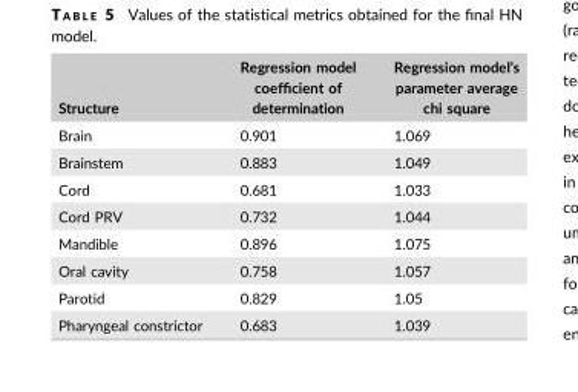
<table><thead><tr><td>Structure</td><td>Regression model coefficient of determination</td><td>Regression model’s parameter average chi square</td></tr></thead><tbody><tr><td>Brain</td><td>0.901</td><td>1.069</td></tr><tr><td>Brainstem</td><td>0.883</td><td>1.049</td></tr><tr><td>Cord</td><td>0.681</td><td>1.033</td></tr><tr><td>Cord PRV</td><td>0.732</td><td>1.044</td></tr><tr><td>Mandible</td><td>0.896</td><td>1.075</td></tr><tr><td>Oral cavity</td><td>0.758</td><td>1.057</td></tr><tr><td>Parotid</td><td>0.829</td><td>1.05</td></tr><tr><td>Pharyngeal constrictor</td><td>0.683</td><td>1.039</td></tr></tbody></table>